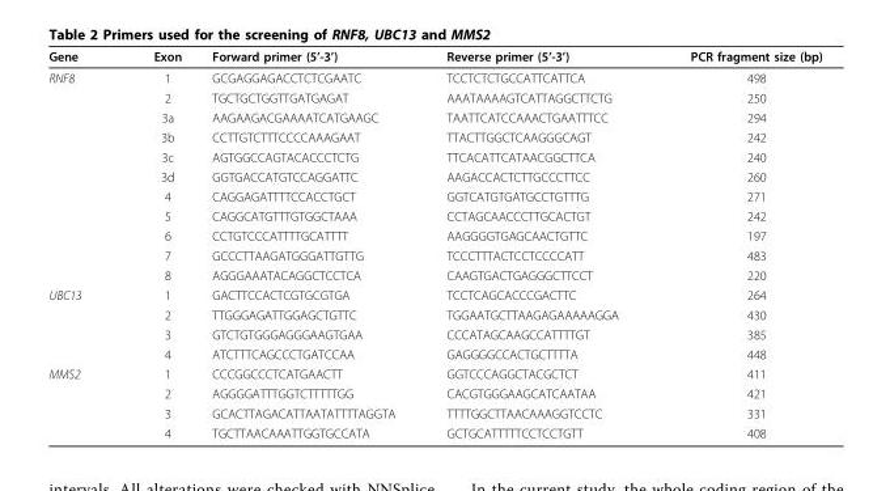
<table><thead><tr><td>Gene</td><td>Exon</td><td>Forward primer (5’-3’)</td><td>Reverse primer (5’-3’)</td><td>PCR fragment size (bp)</td></tr></thead><tbody><tr><td rowspan="11">RNF8</td><td>1</td><td>GCGAGGAGACCTCTCGAATC</td><td>TCCTCTCTGCCATTCATTCA</td><td>498</td></tr><tr><td>2</td><td>TGCTGCTGGTTGATGAGAT</td><td>AAATAAAAGTCATTAGGCTTCTG</td><td>250</td></tr><tr><td>3a</td><td>AAGAAGACGAAAATCATGAAGC</td><td>TAATTCATCCAAACTGAATTTCC</td><td>294</td></tr><tr><td>3b</td><td>CCTTGTCTTTCCCCAAAGAAT</td><td>TTACTTGGCTCAAGGGCAGT</td><td>242</td></tr><tr><td>3c</td><td>AGTGGCCAGTACACCCTCTG</td><td>TTCACATTCATAACGGCTTCA</td><td>240</td></tr><tr><td>3d</td><td>GGTGACCATGTCCAGGATTC</td><td>AAGACCACTCTTGCCCTTCC</td><td>260</td></tr><tr><td>4</td><td>CAGGAGATTTTCCACCTGCT</td><td>GGTCATGTGATGCCTGTTTG</td><td>271</td></tr><tr><td>5</td><td>CAGGCATGTTTGTGGCTAAA</td><td>CCTAGCAACCCTTGCACTGT</td><td>242</td></tr><tr><td>6</td><td>CCTGTCCCATTTTGCATTTT</td><td>AAGGGGTGAGCAACTGTTC</td><td>197</td></tr><tr><td>7</td><td>GCCCTTAAGATGGGATTGTTG</td><td>TCCCTTTACTCCTCCCCATT</td><td>483</td></tr><tr><td>8</td><td>AGGGAAATACAGGCTCCTCA</td><td>CAAGTGACTGAGGGCTTCCT</td><td>220</td></tr><tr><td rowspan="4">UBC13</td><td>1</td><td>GACTTCCACTCGTGCGTGA</td><td>TCCTCAGCACCCGACTTC</td><td>264</td></tr><tr><td>2</td><td>TTGGGAGATTGGAGCTGTTC</td><td>TGGAATGCTTAAGAGAAAAAGGA</td><td>430</td></tr><tr><td>3</td><td>GTCTGTGGGAGGGAAGTGAA</td><td>CCCATAGCAAGCCATTTTGT</td><td>385</td></tr><tr><td>4</td><td>ATCTTTCAGCCCTGATCCAA</td><td>GAGGGGCCACTGCTTTTA</td><td>448</td></tr><tr><td rowspan="4">MMS2</td><td>1</td><td>CCCGGCCCTCATGAACTT</td><td>GGTCCCAGGCTACGCTCT</td><td>411</td></tr><tr><td>2</td><td>AGGGGATTTGGTCTTTTTGG</td><td>CACGTGGGAAGCATCAATAA</td><td>421</td></tr><tr><td>3</td><td>GCACTTAGACATTAATATTTTAGGTA</td><td>TTTTGGCTTAACAAAGGTCCTC</td><td>331</td></tr><tr><td>4</td><td>TGCTTAACAAATTGGTGCCATA</td><td>GCTGCATTTTTCCTCCTGTT</td><td>408</td></tr></tbody></table>